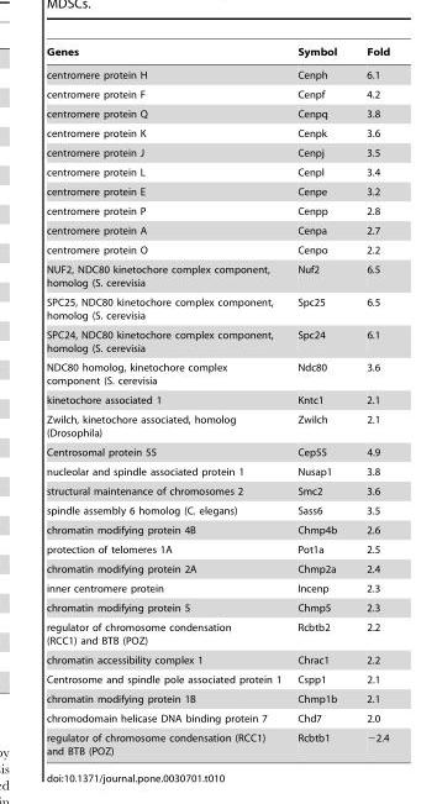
<table><thead><tr><td>Genes</td><td>Symbol</td><td>Fold</td></tr></thead><tbody><tr><td>centromere protein H</td><td>Cenph</td><td>6.1</td></tr><tr><td>centromere protein F</td><td>Cenpf</td><td>4.2</td></tr><tr><td>centromere protein Q</td><td>Cenpq</td><td>3.8</td></tr><tr><td>centromere protein K</td><td>Cenpk</td><td>3.6</td></tr><tr><td>centromere protein J</td><td>Cenpj</td><td>3.5</td></tr><tr><td>centromere protein L</td><td>Cenpl</td><td>3.4</td></tr><tr><td>centromere protein E</td><td>Cenpe</td><td>3.2</td></tr><tr><td>centromere protein P</td><td>Cenpp</td><td>2.8</td></tr><tr><td>centromere protein A</td><td>Cenpa</td><td>2.7</td></tr><tr><td>centromere protein O</td><td>Cenpo</td><td>2.2</td></tr><tr><td>NUF2, NDC80 kinetochore complex component, homolog (S. cerevisia</td><td>Nuf2</td><td>6.5</td></tr><tr><td>SPC25, NDC80 kinetochore complex component, homolog (S. cerevisia</td><td>Spc25</td><td>6.5</td></tr><tr><td>SPC24, NDC80 kinetochore complex component, homolog (S. cerevisia</td><td>Spc24</td><td>6.1</td></tr><tr><td>NDC80 homolog, kinetochore complex component (S. cerevisia</td><td>Ndc80</td><td>3.6</td></tr><tr><td>kinetochore associated 1</td><td>Kntc1</td><td>2.1</td></tr><tr><td>Zwilch, kinetochore associated, homolog (Drosophila)</td><td>Zwilch</td><td>2.1</td></tr><tr><td>Centrosomal protein 55</td><td>Cep55</td><td>4.9</td></tr><tr><td>nucleolar and spindle associated protein 1</td><td>Nusap1</td><td>3.8</td></tr><tr><td>structural maintenance of chromosomes 2</td><td>Smc2</td><td>3.6</td></tr><tr><td>spindle assembly 6 homolog (C. elegans)</td><td>Sass6</td><td>3.5</td></tr><tr><td>chromatin modifying protein 4B</td><td>Chmp4b</td><td>2.6</td></tr><tr><td>protection of telomeres 1A</td><td>Pot1a</td><td>2.5</td></tr><tr><td>chromatin modifying protein 2A</td><td>Chmp2a</td><td>2.4</td></tr><tr><td>inner centromere protein</td><td>Incenp</td><td>2.3</td></tr><tr><td>chromatin modifying protein 5</td><td>Chmp5</td><td>2.3</td></tr><tr><td>regulator of chromosome condensation (RCC1) and BTB (POZ)</td><td>Rcbtb2</td><td>2.2</td></tr><tr><td>chromatin accessibility complex 1</td><td>Chrac1</td><td>2.2</td></tr><tr><td>Centrosome and spindle pole associated protein 1</td><td>Cspp1</td><td>2.1</td></tr><tr><td>chromatin modifying protein 1B</td><td>Chmp1b</td><td>2.1</td></tr><tr><td>chromodomain helicase DNA binding protein 7</td><td>Chd7</td><td>2.0</td></tr><tr><td>regulator of chromosome condensation (RCC1) and BTB (POZ)</td><td>Rcbtb1</td><td>−2.4</td></tr></tbody></table>